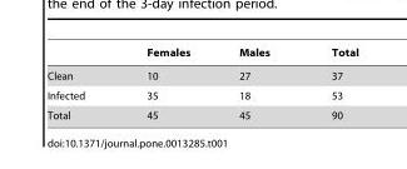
<table><thead><tr><td></td><td>Females</td><td>Males</td><td>Total</td></tr></thead><tbody><tr><td>Clean</td><td>10</td><td>27</td><td>37</td></tr><tr><td>Infected</td><td>35</td><td>18</td><td>53</td></tr><tr><td>Total</td><td>45</td><td>45</td><td>90</td></tr></tbody></table>